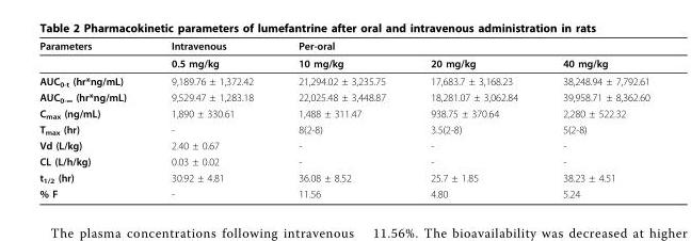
<table><thead><tr><td rowspan="2">Parameters</td><td rowspan="2">Intravenous 0.5 mg/kg</td><td colspan="3">Per-oral</td></tr><tr><td>10 mg/kg</td><td>20 mg/kg</td><td>40 mg/kg</td></tr></thead><tbody><tr><td>AUC<sub>0-t</sub> (hr*ng/mL)</td><td>9,189.76 ± 1,372.42</td><td>21,294.02 ± 3,235.75</td><td>17,683.7 ± 3,168.23</td><td>38,248.94 ± 7,792.61</td></tr><tr><td>AUC<sub>0-∞</sub> (hr*ng/mL)</td><td>9,529.47 ± 1,283.18</td><td>22,025.48 ± 3,448.87</td><td>18,281.07 ± 3,062.84</td><td>39,958.71 ± 8,362.60</td></tr><tr><td>C<sub>max</sub> (ng/mL)</td><td>1,890 ± 330.61</td><td>1,488 ± 311.47</td><td>938.75 ± 370.64</td><td>2,280 ± 522.32</td></tr><tr><td>T<sub>max</sub> (hr)</td><td>-</td><td>8(2-8)</td><td>3.5(2-8)</td><td>5(2-8)</td></tr><tr><td>Vd (L/kg)</td><td>2.40 ± 0.67</td><td>-</td><td>-</td><td>-</td></tr><tr><td>CL (L/h/kg)</td><td>0.03 ± 0.02</td><td>-</td><td>-</td><td>-</td></tr><tr><td>t<sub>1/2</sub> (hr)</td><td>30.92 ± 4.81</td><td>36.08 ± 8.52</td><td>25.7 ± 1.85</td><td>38.23 ± 4.51</td></tr><tr><td>% F</td><td>-</td><td>11.56</td><td>4.80</td><td>5.24</td></tr></tbody></table>